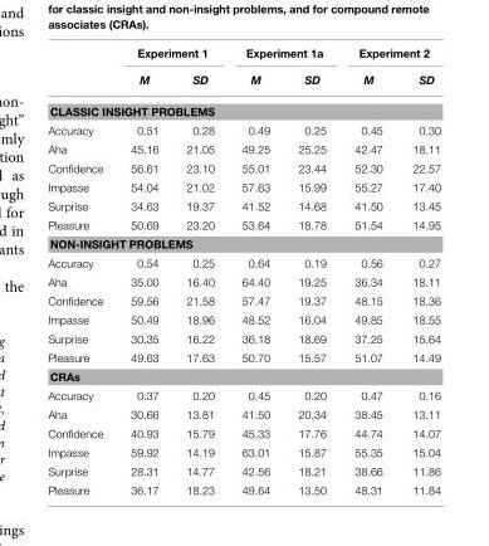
<table><thead><tr><td rowspan="2"></td><td colspan="2">Experiment 1</td><td colspan="2">Experiment 1a</td><td colspan="2">Experiment 2</td></tr><tr><td>M</td><td>SD</td><td>M</td><td>SD</td><td>M</td><td>SD</td></tr></thead><tbody><tr><td colspan="7">CLASSIC INSIGHT PROBLEMS</td></tr><tr><td>Accuracy</td><td>0.51</td><td>0.28</td><td>0.49</td><td>0.25</td><td>0.45</td><td>0.30</td></tr><tr><td>Aha</td><td>45.16</td><td>21.05</td><td>49.25</td><td>25.25</td><td>42.47</td><td>18.11</td></tr><tr><td>Confidence</td><td>56.61</td><td>23.10</td><td>55.01</td><td>23.44</td><td>52.30</td><td>22.57</td></tr><tr><td>Impasse</td><td>54.04</td><td>21.02</td><td>57.63</td><td>15.99</td><td>55.27</td><td>17.40</td></tr><tr><td>Surprise</td><td>34.63</td><td>19.37</td><td>41.52</td><td>14.68</td><td>41.50</td><td>13.45</td></tr><tr><td>Pleasure</td><td>50.69</td><td>23.20</td><td>53.64</td><td>18.78</td><td>51.54</td><td>14.95</td></tr><tr><td colspan="7">NON-INSIGHT PROBLEMS</td></tr><tr><td>Accuracy</td><td>0.54</td><td>0.25</td><td>0.64</td><td>0.19</td><td>0.56</td><td>0.27</td></tr><tr><td>Aha</td><td>35.00</td><td>16.40</td><td>64.40</td><td>19.25</td><td>36.34</td><td>18.11</td></tr><tr><td>Confidence</td><td>59.56</td><td>21.58</td><td>57.47</td><td>19.37</td><td>48.15</td><td>18.36</td></tr><tr><td>Impasse</td><td>50.49</td><td>18.96</td><td>48.52</td><td>16.04</td><td>49.85</td><td>18.55</td></tr><tr><td>Surprise</td><td>30.35</td><td>16.22</td><td>36.18</td><td>18.69</td><td>37.25</td><td>15.64</td></tr><tr><td>Pleasure</td><td>49.63</td><td>17.63</td><td>50.70</td><td>15.57</td><td>51.07</td><td>14.49</td></tr><tr><td colspan="7">CRAs</td></tr><tr><td>Accuracy</td><td>0.37</td><td>0.20</td><td>0.45</td><td>0.20</td><td>0.47</td><td>0.16</td></tr><tr><td>Aha</td><td>30.66</td><td>13.81</td><td>41.50</td><td>20.34</td><td>38.45</td><td>13.11</td></tr><tr><td>Confidence</td><td>40.93</td><td>15.79</td><td>45.33</td><td>17.76</td><td>44.74</td><td>14.07</td></tr><tr><td>Impasse</td><td>59.92</td><td>14.19</td><td>63.01</td><td>15.87</td><td>55.35</td><td>15.04</td></tr><tr><td>Surprise</td><td>28.31</td><td>14.77</td><td>42.56</td><td>18.21</td><td>38.66</td><td>11.86</td></tr><tr><td>Pleasure</td><td>36.17</td><td>18.23</td><td>49.64</td><td>13.50</td><td>48.31</td><td>11.84</td></tr></tbody></table>